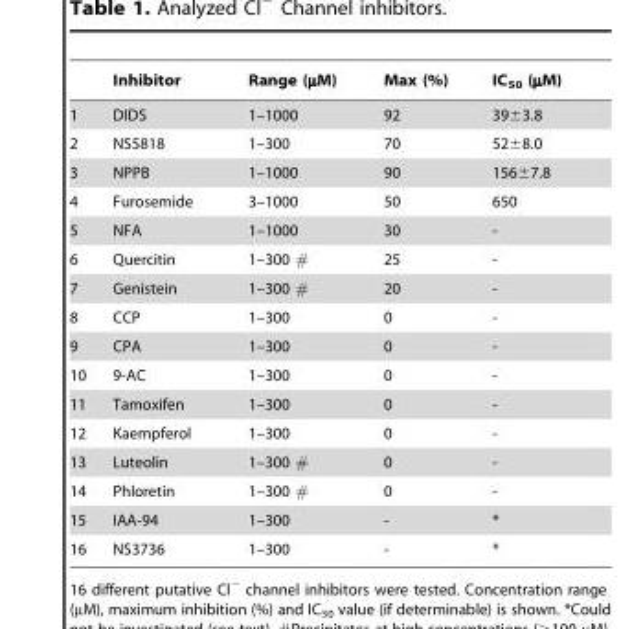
<table><thead><tr><td></td><td>Inhibitor</td><td>Range (µM)</td><td>Max (%)</td><td>IC<sub>50</sub> (µM)</td></tr></thead><tbody><tr><td>1</td><td>DIDS</td><td>1–1000</td><td>92</td><td>39±3.8</td></tr><tr><td>2</td><td>NS5818</td><td>1–300</td><td>70</td><td>52±8.0</td></tr><tr><td>3</td><td>NPPB</td><td>1–1000</td><td>90</td><td>156±7.8</td></tr><tr><td>4</td><td>Furosemide</td><td>3–1000</td><td>50</td><td>650</td></tr><tr><td>5</td><td>NFA</td><td>1–1000</td><td>30</td><td>-</td></tr><tr><td>6</td><td>Quercitin</td><td>1–300 #</td><td>25</td><td>-</td></tr><tr><td>7</td><td>Genistein</td><td>1–300 #</td><td>20</td><td>-</td></tr><tr><td>8</td><td>CCP</td><td>1–300</td><td>0</td><td>-</td></tr><tr><td>9</td><td>CPA</td><td>1–300</td><td>0</td><td>-</td></tr><tr><td>10</td><td>9-AC</td><td>1–300</td><td>0</td><td>-</td></tr><tr><td>11</td><td>Tamoxifen</td><td>1–300</td><td>0</td><td>-</td></tr><tr><td>12</td><td>Kaempferol</td><td>1–300</td><td>0</td><td>-</td></tr><tr><td>13</td><td>Luteolin</td><td>1–300 #</td><td>0</td><td>-</td></tr><tr><td>14</td><td>Phloretin</td><td>1–300 #</td><td>0</td><td>-</td></tr><tr><td>15</td><td>IAA-94</td><td>1–300</td><td>-</td><td>*</td></tr><tr><td>16</td><td>NS3736</td><td>1–300</td><td>-</td><td>*</td></tr></tbody></table>